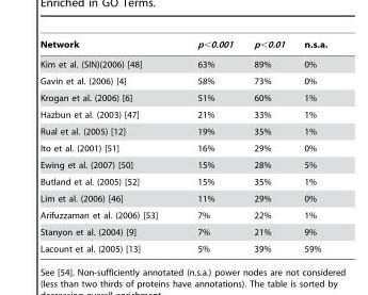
<table><thead><tr><td>Network</td><td>p&lt;0.001</td><td>p&lt;0.01</td><td>n.s.a.</td></tr></thead><tbody><tr><td>Kim et al. (SIN)(2006) [48]</td><td>63%</td><td>89%</td><td>0%</td></tr><tr><td>Gavin et al. (2006) [4]</td><td>58%</td><td>73%</td><td>0%</td></tr><tr><td>Krogan et al. (2006) [6]</td><td>51%</td><td>60%</td><td>1%</td></tr><tr><td>Hazbun et al. (2003) [47]</td><td>21%</td><td>33%</td><td>1%</td></tr><tr><td>Rual et al. (2005) [12]</td><td>19%</td><td>35%</td><td>1%</td></tr><tr><td>Ito et al. (2001) [51]</td><td>16%</td><td>29%</td><td>0%</td></tr><tr><td>Ewing et al. (2007) [50]</td><td>15%</td><td>28%</td><td>5%</td></tr><tr><td>Butland et al. (2005) [52]</td><td>15%</td><td>35%</td><td>1%</td></tr><tr><td>Lim et al. (2006) [46]</td><td>11%</td><td>29%</td><td>0%</td></tr><tr><td>Arifuzzaman et al. (2006) [53]</td><td>7%</td><td>22%</td><td>1%</td></tr><tr><td>Stanyon et al. (2004) [9]</td><td>7%</td><td>21%</td><td>9%</td></tr><tr><td>Lacount et al. (2005) [13]</td><td>5%</td><td>39%</td><td>59%</td></tr></tbody></table>